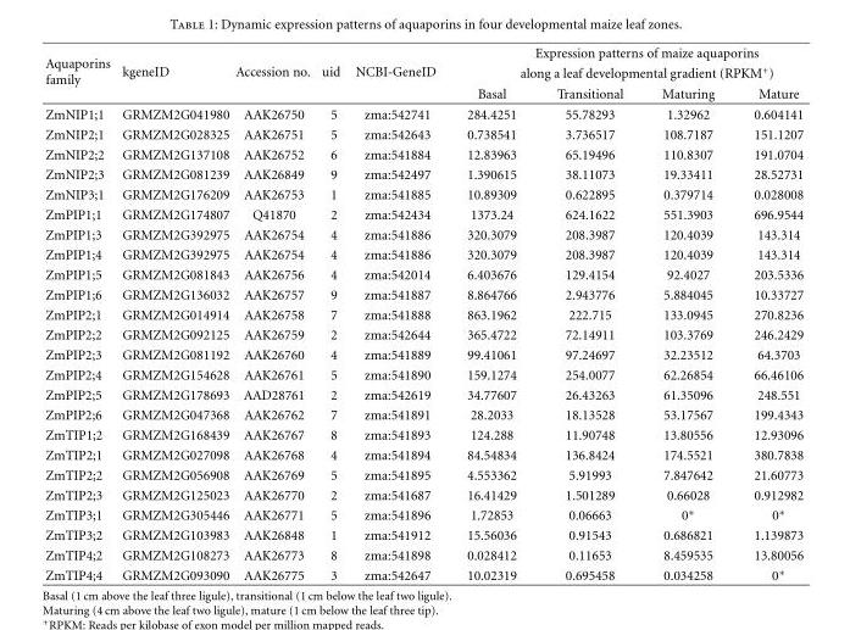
<table><thead><tr><td rowspan="3">Aquaporins family</td><td rowspan="3">kgeneID</td><td rowspan="3">Accession no.</td><td rowspan="3">uid</td><td rowspan="3">NCBI-GeneID</td><td rowspan="2" colspan="4">Expression patterns of maize aquaporins along a leaf developmental gradient (RPKM<sup>+</sup>)</td></tr><tr></tr><tr><td>Basal</td><td>Transitional</td><td>Maturing</td><td>Mature</td></tr></thead><tbody><tr><td>ZmNIP1;1</td><td>GRMZM2G041980</td><td>AAK26750</td><td>5</td><td>zma:542741</td><td>284.4251</td><td>55.78293</td><td>1.32962</td><td>0.604141</td></tr><tr><td>ZmNIP2;1</td><td>GRMZM2G028325</td><td>AAK26751</td><td>5</td><td>zma:542643</td><td>0.738541</td><td>3.736517</td><td>108.7187</td><td>151.1207</td></tr><tr><td>ZmNIP2;2</td><td>GRMZM2G137108</td><td>AAK26752</td><td>6</td><td>zma:541884</td><td>12.83963</td><td>65.19496</td><td>110.8307</td><td>191.0704</td></tr><tr><td>ZmNIP2;3</td><td>GRMZM2G081239</td><td>AAK26849</td><td>9</td><td>zma:542497</td><td>1.390615</td><td>38.11073</td><td>19.33411</td><td>28.52731</td></tr><tr><td>ZmNIP3;1</td><td>GRMZM2G176209</td><td>AAK26753</td><td>1</td><td>zma:541885</td><td>10.89309</td><td>0.622895</td><td>0.379714</td><td>0.028008</td></tr><tr><td>ZmPIP1;1</td><td>GRMZM2G174807</td><td>Q41870</td><td>2</td><td>zma:542434</td><td>1373.24</td><td>624.1622</td><td>551.3903</td><td>696.9544</td></tr><tr><td>ZmPIP1;3</td><td>GRMZM2G392975</td><td>AAK26754</td><td>4</td><td>zma:541886</td><td>320.3079</td><td>208.3987</td><td>120.4039</td><td>143.314</td></tr><tr><td>ZmPIP1;4</td><td>GRMZM2G392975</td><td>AAK26754</td><td>4</td><td>zma:541886</td><td>320.3079</td><td>208.3987</td><td>120.4039</td><td>143.314</td></tr><tr><td>ZmPIP1;5</td><td>GRMZM2G081843</td><td>AAK26756</td><td>4</td><td>zma:542014</td><td>6.403676</td><td>129.4154</td><td>92.4027</td><td>203.5336</td></tr><tr><td>ZmPIP1;6</td><td>GRMZM2G136032</td><td>AAK26757</td><td>9</td><td>zma:541887</td><td>8.864766</td><td>2.943776</td><td>5.884045</td><td>10.33727</td></tr><tr><td>ZmPIP2;1</td><td>GRMZM2G014914</td><td>AAK26758</td><td>7</td><td>zma:541888</td><td>863.1962</td><td>222.715</td><td>133.0945</td><td>270.8236</td></tr><tr><td>ZmPIP2;2</td><td>GRMZM2G092125</td><td>AAK26759</td><td>2</td><td>zma:542644</td><td>365.4722</td><td>72.14911</td><td>103.3769</td><td>246.2429</td></tr><tr><td>ZmPIP2;3</td><td>GRMZM2G081192</td><td>AAK26760</td><td>4</td><td>zma:541889</td><td>99.41061</td><td>97.24697</td><td>32.23512</td><td>64.3703</td></tr><tr><td>ZmPIP2;4</td><td>GRMZM2G154628</td><td>AAK26761</td><td>5</td><td>zma:541890</td><td>159.1274</td><td>254.0077</td><td>62.26854</td><td>66.46106</td></tr><tr><td>ZmPIP2;5</td><td>GRMZM2G178693</td><td>AAD28761</td><td>2</td><td>zma:542619</td><td>34.77607</td><td>26.43263</td><td>61.35096</td><td>248.551</td></tr><tr><td>ZmPIP2;6</td><td>GRMZM2G047368</td><td>AAK26762</td><td>7</td><td>zma:541891</td><td>28.2033</td><td>18.13528</td><td>53.17567</td><td>199.4343</td></tr><tr><td>ZmTIP1;2</td><td>GRMZM2G168439</td><td>AAK26767</td><td>8</td><td>zma:541893</td><td>124.288</td><td>11.90748</td><td>13.80556</td><td>12.93096</td></tr><tr><td>ZmTIP2;1</td><td>GRMZM2G027098</td><td>AAK26768</td><td>4</td><td>zma:541894</td><td>84.54834</td><td>136.8424</td><td>174.5521</td><td>380.7838</td></tr><tr><td>ZmTIP2;2</td><td>GRMZM2G056908</td><td>AAK26769</td><td>5</td><td>zma:541895</td><td>4.553362</td><td>5.91993</td><td>7.847642</td><td>21.60773</td></tr><tr><td>ZmTIP2;3</td><td>GRMZM2G125023</td><td>AAK26770</td><td>2</td><td>zma:541687</td><td>16.41429</td><td>1.501289</td><td>0.66028</td><td>0.912982</td></tr><tr><td>ZmTIP3;1</td><td>GRMZM2G305446</td><td>AAK26771</td><td>5</td><td>zma:541896</td><td>1.72853</td><td>0.06663</td><td>0∗</td><td>0∗</td></tr><tr><td>ZmTIP3;2</td><td>GRMZM2G103983</td><td>AAK26848</td><td>1</td><td>zma:541912</td><td>15.56036</td><td>0.91543</td><td>0.686821</td><td>1.139873</td></tr><tr><td>ZmTIP4;2</td><td>GRMZM2G108273</td><td>AAK26773</td><td>8</td><td>zma:541898</td><td>0.028412</td><td>0.11653</td><td>8.459535</td><td>13.80056</td></tr><tr><td>ZmTIP4;4</td><td>GRMZM2G093090</td><td>AAK26775</td><td>3</td><td>zma:542647</td><td>10.02319</td><td>0.695458</td><td>0.034258</td><td>0∗</td></tr></tbody></table>